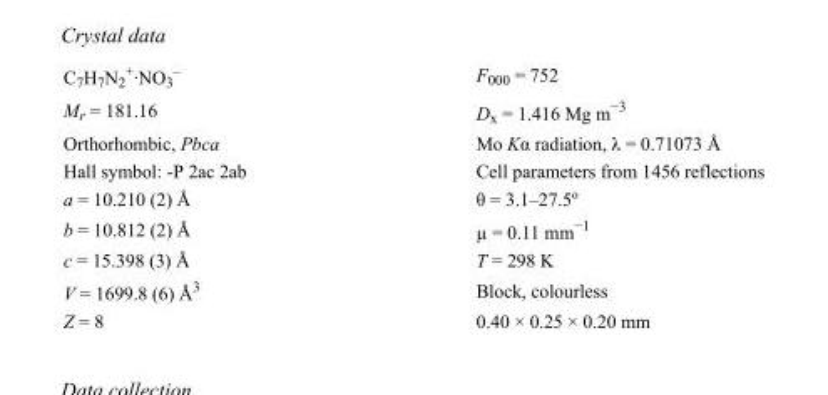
<table><tbody><tr><td>C<sub>7</sub>H<sub>7</sub>N<sub>2</sub> <sup>+</sup>·NO<sub>3</sub> <sup>–</sup></td><td>F000 = 752</td></tr><tr><td>M<sub>r</sub> = 181.16</td><td>D<sub>x</sub> = 1.416 Mg m<sup>−3</sup></td></tr><tr><td>Orthorhombic, Pbca</td><td>Mo Kα radiation, λ = 0.71073 Å</td></tr><tr><td>Hall symbol: -P 2ac 2ab</td><td>Cell parameters from 1456 reflections</td></tr><tr><td>a = 10.210 (2) Å</td><td>θ = 3.1–27.5º</td></tr><tr><td>b = 10.812 (2) Å</td><td>µ = 0.11 mm<sup>−1</sup></td></tr><tr><td>c = 15.398 (3) Å</td><td>T = 298 K</td></tr><tr><td>V = 1699.8 (6) Å<sup>3</sup></td><td>Block, colourless</td></tr><tr><td>Z = 8</td><td>0.40 × 0.25 × 0.20 mm</td></tr></tbody></table>